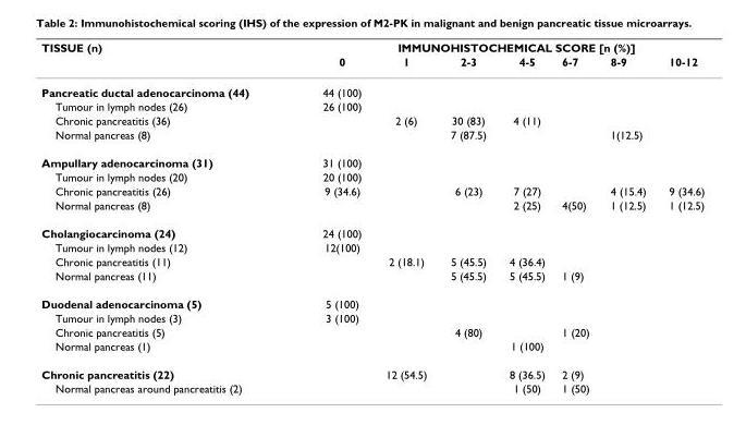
<table><thead><tr><td rowspan="2">TISSUE (n)</td><td colspan="7">IMMUNOHISTOCHEMICAL SCORE [n (%)]</td></tr><tr><td>0</td><td>1</td><td>2-3</td><td>4-5</td><td>6-7</td><td>8-9</td><td>10-12</td></tr></thead><tbody><tr><td>Pancreatic ductal adenocarcinoma (44)</td><td>44 (100)</td><td></td><td></td><td></td><td></td><td></td><td></td></tr><tr><td>Tumour in lymph nodes (26)</td><td>26 (100)</td><td></td><td></td><td></td><td></td><td></td><td></td></tr><tr><td>Chronic pancreatitis (36)</td><td></td><td>2 (6)</td><td>30 (83)</td><td>4 (11)</td><td></td><td></td><td></td></tr><tr><td>Normal pancreas (8)</td><td></td><td></td><td>7 (87.5)</td><td></td><td></td><td>1(12.5)</td><td></td></tr><tr><td>Ampullary adenocarcinoma (31)</td><td>31 (100)</td><td></td><td></td><td></td><td></td><td></td><td></td></tr><tr><td>Tumour in lymph nodes (20)</td><td>20 (100)</td><td></td><td></td><td></td><td></td><td></td><td></td></tr><tr><td>Chronic pancreatitis (26)</td><td>9 (34.6)</td><td></td><td>6 (23)</td><td>7 (27)</td><td></td><td>4 (15.4)</td><td>9 (34.6)</td></tr><tr><td>Normal pancreas (8)</td><td></td><td></td><td></td><td>2 (25)</td><td>4(50)</td><td>1 (12.5)</td><td>1 (12.5)</td></tr><tr><td>Cholangiocarcinoma (24)</td><td>24 (100)</td><td></td><td></td><td></td><td></td><td></td><td></td></tr><tr><td>Tumour in lymph nodes (12)</td><td>12(100)</td><td></td><td></td><td></td><td></td><td></td><td></td></tr><tr><td>Chronic pancreatitis (11)</td><td></td><td>2 (18.1)</td><td>5 (45.5)</td><td>4 (36.4)</td><td></td><td></td><td></td></tr><tr><td>Normal pancreas (11)</td><td></td><td></td><td>5 (45.5)</td><td>5 (45.5)</td><td>1 (9)</td><td></td><td></td></tr><tr><td>Duodenal adenocarcinoma (5)</td><td>5 (100)</td><td></td><td></td><td></td><td></td><td></td><td></td></tr><tr><td>Tumour in lymph nodes (3)</td><td>3 (100)</td><td></td><td></td><td></td><td></td><td></td><td></td></tr><tr><td>Chronic pancreatitis (5)</td><td></td><td></td><td>4 (80)</td><td></td><td>1 (20)</td><td></td><td></td></tr><tr><td>Normal pancreas (1)</td><td></td><td></td><td></td><td>1 (100)</td><td></td><td></td><td></td></tr><tr><td>Chronic pancreatitis (22)</td><td></td><td>12 (54.5)</td><td></td><td>8 (36.5)</td><td>2 (9)</td><td></td><td></td></tr><tr><td>Normal pancreas around pancreatitis (2)</td><td></td><td></td><td></td><td>1 (50)</td><td>1 (50)</td><td></td><td></td></tr></tbody></table>